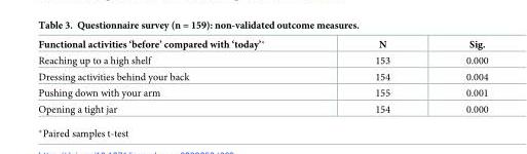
<table><thead><tr><td>Functional activities ‘before’ compared with ‘today’*</td><td>N</td><td>Sig.</td></tr></thead><tbody><tr><td>Reaching up to a high shelf</td><td>153</td><td>0.000</td></tr><tr><td>Dressing activities behind your back</td><td>154</td><td>0.004</td></tr><tr><td>Pushing down with your arm</td><td>155</td><td>0.001</td></tr><tr><td>Opening a tight jar</td><td>154</td><td>0.000</td></tr></tbody></table>